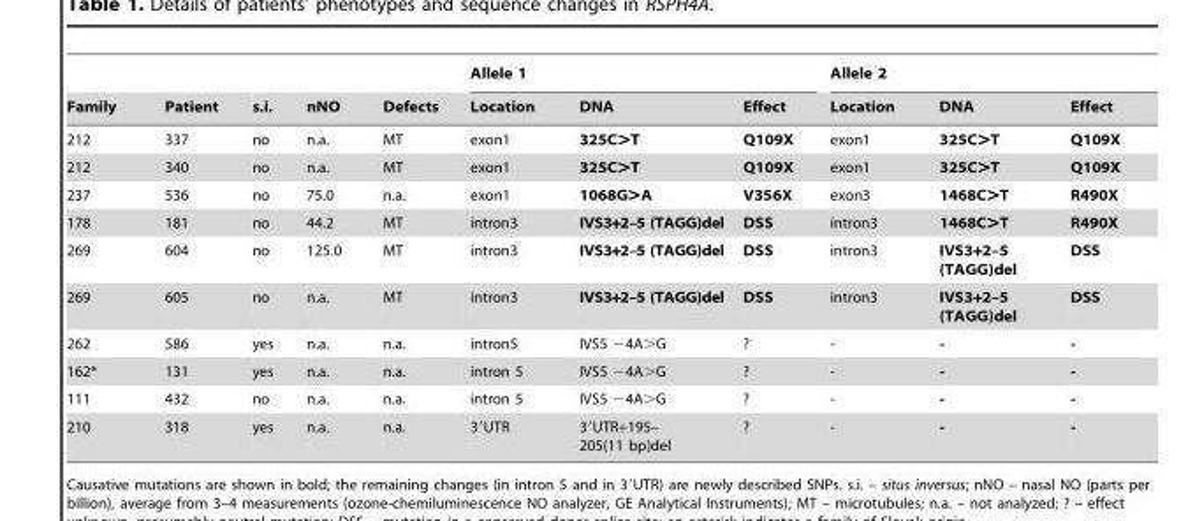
<table><thead><tr><td rowspan="2">Family</td><td rowspan="2">Patient</td><td rowspan="2">s.i.</td><td rowspan="2">nNO</td><td rowspan="2">Defects</td><td colspan="3">Allele 1</td><td colspan="3">Allele 2</td></tr><tr><td>Location</td><td>DNA</td><td>Effect</td><td>Location</td><td>DNA</td><td>Effect</td></tr></thead><tbody><tr><td>212</td><td>337</td><td>no</td><td>n.a.</td><td>MT</td><td>exon1</td><td>325C&gt;T</td><td>Q109X</td><td>exon1</td><td>325C&gt;T</td><td>Q109X</td></tr><tr><td>212</td><td>340</td><td>no</td><td>n.a.</td><td>MT</td><td>exon1</td><td>325C&gt;T</td><td>Q109X</td><td>exon1</td><td>325C&gt;T</td><td>Q109X</td></tr><tr><td>237</td><td>536</td><td>no</td><td>75.0</td><td>n.a.</td><td>exon1</td><td>1068G&gt;A</td><td>V356X</td><td>exon3</td><td>1468C&gt;T</td><td>R490X</td></tr><tr><td>178</td><td>181</td><td>no</td><td>44.2</td><td>MT</td><td>intron3</td><td>IVS3+2–5 (TAGG)del</td><td>DSS</td><td>intron3</td><td>1468C&gt;T</td><td>R490X</td></tr><tr><td>269</td><td>604</td><td>no</td><td>125.0</td><td>MT</td><td>intron3</td><td>IVS3+2–5 (TAGG)del</td><td>DSS</td><td>intron3</td><td>IVS3+2–5 (TAGG)del</td><td>DSS</td></tr><tr><td>269</td><td>605</td><td>no</td><td>n.a.</td><td>MT</td><td>intron3</td><td>IVS3+2–5 (TAGG)del</td><td>DSS</td><td>intron3</td><td>IVS3+2–5 (TAGG)del</td><td>DSS</td></tr><tr><td>262</td><td>586</td><td>yes</td><td>n.a.</td><td>n.a.</td><td>intron5</td><td>IVS5 −4A&gt;G</td><td>?</td><td>-</td><td>-</td><td>-</td></tr><tr><td>162*</td><td>131</td><td>yes</td><td>n.a.</td><td>n.a.</td><td>intron 5</td><td>IVS5 −4A&gt;G</td><td>?</td><td>-</td><td>-</td><td>-</td></tr><tr><td>111</td><td>432</td><td>no</td><td>n.a.</td><td>n.a.</td><td>intron 5</td><td>IVS5 −4A&gt;G</td><td>?</td><td>-</td><td>-</td><td>-</td></tr><tr><td>210</td><td>318</td><td>yes</td><td>n.a.</td><td>n.a.</td><td>3′UTR</td><td>3′UTR+195– 205(11 bp)del</td><td>?</td><td>-</td><td>-</td><td>-</td></tr></tbody></table>